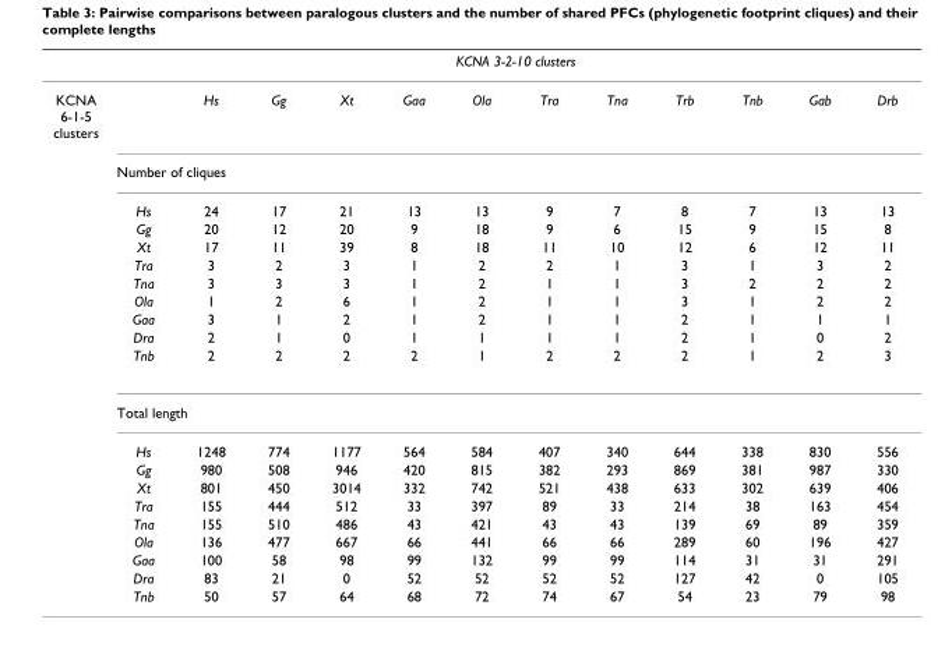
<table><thead><tr><td rowspan="2">KCNA 6-1-5 clusters</td><td colspan="12">KCNA 3-2-10 clusters</td></tr><tr><td></td><td>Hs</td><td>Gg</td><td>Xt</td><td>Gaa</td><td>Ola</td><td>Tra</td><td>Tna</td><td>Trb</td><td>Tnb</td><td>Gab</td><td>Drb</td></tr></thead><tbody><tr><td></td><td colspan="12">Number of cliques</td></tr><tr><td></td><td>Hs</td><td>24</td><td>17</td><td>21</td><td>13</td><td>13</td><td>9</td><td>7</td><td>8</td><td>7</td><td>13</td><td>13</td></tr><tr><td></td><td>Gg</td><td>20</td><td>12</td><td>20</td><td>9</td><td>18</td><td>9</td><td>6</td><td>15</td><td>9</td><td>15</td><td>8</td></tr><tr><td></td><td>Xt</td><td>17</td><td>11</td><td>39</td><td>8</td><td>18</td><td>11</td><td>10</td><td>12</td><td>6</td><td>12</td><td>11</td></tr><tr><td></td><td>Tra</td><td>3</td><td>2</td><td>3</td><td>1</td><td>2</td><td>2</td><td>1</td><td>3</td><td>1</td><td>3</td><td>2</td></tr><tr><td></td><td>Tna</td><td>3</td><td>3</td><td>3</td><td>1</td><td>2</td><td>1</td><td>1</td><td>3</td><td>2</td><td>2</td><td>2</td></tr><tr><td></td><td>Ola</td><td>1</td><td>2</td><td>6</td><td>1</td><td>2</td><td>1</td><td>1</td><td>3</td><td>1</td><td>2</td><td>2</td></tr><tr><td></td><td>Gaa</td><td>3</td><td>1</td><td>2</td><td>1</td><td>2</td><td>1</td><td>1</td><td>2</td><td>1</td><td>1</td><td>1</td></tr><tr><td></td><td>Dra</td><td>2</td><td>1</td><td>0</td><td>1</td><td>1</td><td>1</td><td>1</td><td>2</td><td>1</td><td>0</td><td>2</td></tr><tr><td></td><td>Tnb</td><td>2</td><td>2</td><td>2</td><td>2</td><td>1</td><td>2</td><td>2</td><td>2</td><td>1</td><td>2</td><td>3</td></tr><tr><td></td><td colspan="12">Total length</td></tr><tr><td></td><td>Hs</td><td>1248</td><td>774</td><td>1177</td><td>564</td><td>584</td><td>407</td><td>340</td><td>644</td><td>338</td><td>830</td><td>556</td></tr><tr><td></td><td>Gg</td><td>980</td><td>508</td><td>946</td><td>420</td><td>815</td><td>382</td><td>293</td><td>869</td><td>381</td><td>987</td><td>330</td></tr><tr><td></td><td>Xt</td><td>801</td><td>450</td><td>3014</td><td>332</td><td>742</td><td>521</td><td>438</td><td>633</td><td>302</td><td>639</td><td>406</td></tr><tr><td></td><td>Tra</td><td>155</td><td>444</td><td>512</td><td>33</td><td>397</td><td>89</td><td>33</td><td>214</td><td>38</td><td>163</td><td>454</td></tr><tr><td></td><td>Tna</td><td>155</td><td>510</td><td>486</td><td>43</td><td>421</td><td>43</td><td>43</td><td>139</td><td>69</td><td>89</td><td>359</td></tr><tr><td></td><td>Ola</td><td>136</td><td>477</td><td>667</td><td>66</td><td>441</td><td>66</td><td>66</td><td>289</td><td>60</td><td>196</td><td>427</td></tr><tr><td></td><td>Gaa</td><td>100</td><td>58</td><td>98</td><td>99</td><td>132</td><td>99</td><td>99</td><td>114</td><td>31</td><td>31</td><td>291</td></tr><tr><td></td><td>Dra</td><td>83</td><td>21</td><td>0</td><td>52</td><td>52</td><td>52</td><td>52</td><td>127</td><td>42</td><td>0</td><td>105</td></tr><tr><td></td><td>Tnb</td><td>50</td><td>57</td><td>64</td><td>68</td><td>72</td><td>74</td><td>67</td><td>54</td><td>23</td><td>79</td><td>98</td></tr></tbody></table>